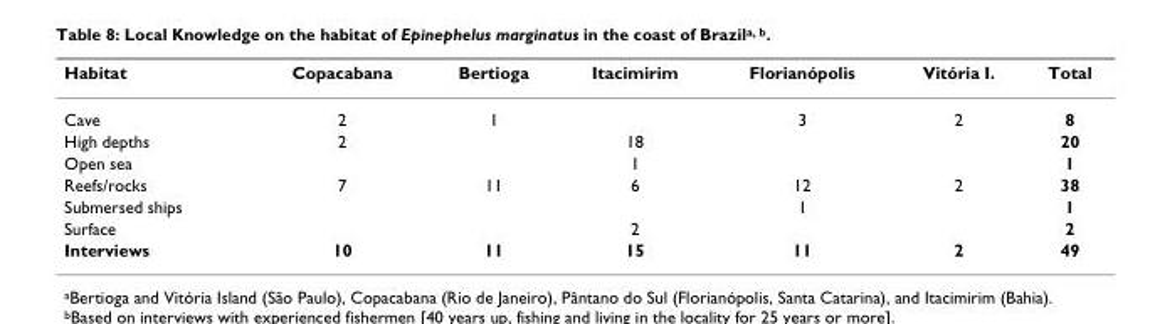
<table><thead><tr><td>Habitat</td><td>Copacabana</td><td>Bertioga</td><td>Itacimirim</td><td>Florianópolis</td><td>Vitória I.</td><td>Total</td></tr></thead><tbody><tr><td>Cave</td><td>2</td><td>1</td><td></td><td>3</td><td>2</td><td>8</td></tr><tr><td>High depths</td><td>2</td><td></td><td>18</td><td></td><td></td><td>20</td></tr><tr><td>Open sea</td><td></td><td></td><td>1</td><td></td><td></td><td>1</td></tr><tr><td>Reefs/rocks</td><td>7</td><td>11</td><td>6</td><td>12</td><td>2</td><td>38</td></tr><tr><td>Submersed ships</td><td></td><td></td><td></td><td>1</td><td></td><td>1</td></tr><tr><td>Surface</td><td></td><td></td><td>2</td><td></td><td></td><td>2</td></tr><tr><td>Interviews</td><td>10</td><td>11</td><td>15</td><td>11</td><td>2</td><td>49</td></tr></tbody></table>